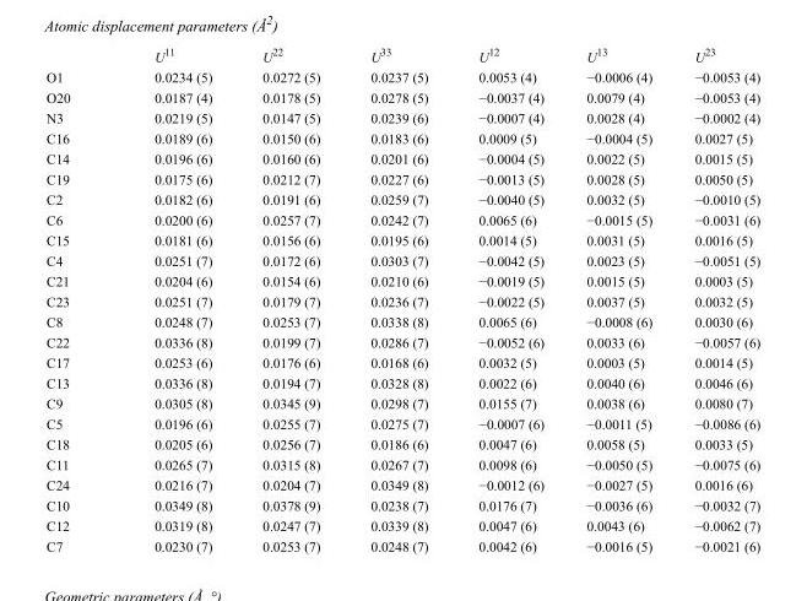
<table><thead><tr><td></td><td>U<sup>11</sup></td><td>U<sup>22</sup></td><td>U<sup>33</sup></td><td>U<sup>12</sup></td><td>U<sup>13</sup></td><td>U<sup>23</sup></td></tr></thead><tbody><tr><td>O1</td><td>0.0234 (5)</td><td>0.0272 (5)</td><td>0.0237 (5)</td><td>0.0053 (4)</td><td>−0.0006 (4)</td><td>−0.0053 (4)</td></tr><tr><td>O20</td><td>0.0187 (4)</td><td>0.0178 (5)</td><td>0.0278 (5)</td><td>−0.0037 (4)</td><td>0.0079 (4)</td><td>−0.0053 (4)</td></tr><tr><td>N3</td><td>0.0219 (5)</td><td>0.0147 (5)</td><td>0.0239 (6)</td><td>−0.0007 (4)</td><td>0.0028 (4)</td><td>−0.0002 (4)</td></tr><tr><td>C16</td><td>0.0189 (6)</td><td>0.0150 (6)</td><td>0.0183 (6)</td><td>0.0009 (5)</td><td>−0.0004 (5)</td><td>0.0027 (5)</td></tr><tr><td>C14</td><td>0.0196 (6)</td><td>0.0160 (6)</td><td>0.0201 (6)</td><td>−0.0004 (5)</td><td>0.0022 (5)</td><td>0.0015 (5)</td></tr><tr><td>C19</td><td>0.0175 (6)</td><td>0.0212 (7)</td><td>0.0227 (6)</td><td>−0.0013 (5)</td><td>0.0028 (5)</td><td>0.0050 (5)</td></tr><tr><td>C2</td><td>0.0182 (6)</td><td>0.0191 (6)</td><td>0.0259 (7)</td><td>−0.0040 (5)</td><td>0.0032 (5)</td><td>−0.0010 (5)</td></tr><tr><td>C6</td><td>0.0200 (6)</td><td>0.0257 (7)</td><td>0.0242 (7)</td><td>0.0065 (6)</td><td>−0.0015 (5)</td><td>−0.0031 (6)</td></tr><tr><td>C15</td><td>0.0181 (6)</td><td>0.0156 (6)</td><td>0.0195 (6)</td><td>0.0014 (5)</td><td>0.0031 (5)</td><td>0.0016 (5)</td></tr><tr><td>C4</td><td>0.0251 (7)</td><td>0.0172 (6)</td><td>0.0303 (7)</td><td>−0.0042 (5)</td><td>0.0023 (5)</td><td>−0.0051 (5)</td></tr><tr><td>C21</td><td>0.0204 (6)</td><td>0.0154 (6)</td><td>0.0210 (6)</td><td>−0.0019 (5)</td><td>0.0015 (5)</td><td>0.0003 (5)</td></tr><tr><td>C23</td><td>0.0251 (7)</td><td>0.0179 (7)</td><td>0.0236 (7)</td><td>−0.0022 (5)</td><td>0.0037 (5)</td><td>0.0032 (5)</td></tr><tr><td>C8</td><td>0.0248 (7)</td><td>0.0253 (7)</td><td>0.0338 (8)</td><td>0.0065 (6)</td><td>−0.0008 (6)</td><td>0.0030 (6)</td></tr><tr><td>C22</td><td>0.0336 (8)</td><td>0.0199 (7)</td><td>0.0286 (7)</td><td>−0.0052 (6)</td><td>0.0033 (6)</td><td>−0.0057 (6)</td></tr><tr><td>C17</td><td>0.0253 (6)</td><td>0.0176 (6)</td><td>0.0168 (6)</td><td>0.0032 (5)</td><td>0.0003 (5)</td><td>0.0014 (5)</td></tr><tr><td>C13</td><td>0.0336 (8)</td><td>0.0194 (7)</td><td>0.0328 (8)</td><td>0.0022 (6)</td><td>0.0040 (6)</td><td>0.0046 (6)</td></tr><tr><td>C9</td><td>0.0305 (8)</td><td>0.0345 (9)</td><td>0.0298 (7)</td><td>0.0155 (7)</td><td>0.0038 (6)</td><td>0.0080 (7)</td></tr><tr><td>C5</td><td>0.0196 (6)</td><td>0.0255 (7)</td><td>0.0275 (7)</td><td>−0.0007 (6)</td><td>−0.0011 (5)</td><td>−0.0086 (6)</td></tr><tr><td>C18</td><td>0.0205 (6)</td><td>0.0256 (7)</td><td>0.0186 (6)</td><td>0.0047 (6)</td><td>0.0058 (5)</td><td>0.0033 (5)</td></tr><tr><td>C11</td><td>0.0265 (7)</td><td>0.0315 (8)</td><td>0.0267 (7)</td><td>0.0098 (6)</td><td>−0.0050 (5)</td><td>−0.0075 (6)</td></tr><tr><td>C24</td><td>0.0216 (7)</td><td>0.0204 (7)</td><td>0.0349 (8)</td><td>−0.0012 (6)</td><td>−0.0027 (5)</td><td>0.0016 (6)</td></tr><tr><td>C10</td><td>0.0349 (8)</td><td>0.0378 (9)</td><td>0.0238 (7)</td><td>0.0176 (7)</td><td>−0.0036 (6)</td><td>−0.0032 (7)</td></tr><tr><td>C12</td><td>0.0319 (8)</td><td>0.0247 (7)</td><td>0.0339 (8)</td><td>0.0047 (6)</td><td>0.0043 (6)</td><td>−0.0062 (7)</td></tr><tr><td>C7</td><td>0.0230 (7)</td><td>0.0253 (7)</td><td>0.0248 (7)</td><td>0.0042 (6)</td><td>−0.0016 (5)</td><td>−0.0021 (6)</td></tr></tbody></table>